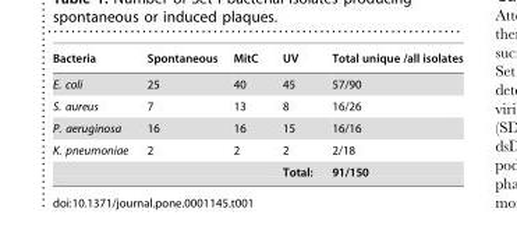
<table><thead><tr><td>Bacteria</td><td>Spontaneous</td><td>MitC</td><td>UV</td><td>Total unique /all isolates</td></tr></thead><tbody><tr><td>E. coli</td><td>25</td><td>40</td><td>45</td><td>57/90</td></tr><tr><td>S. aureus</td><td>7</td><td>13</td><td>8</td><td>16/26</td></tr><tr><td>P. aeruginosa</td><td>16</td><td>16</td><td>15</td><td>16/16</td></tr><tr><td rowspan="2">K. pneumoniae</td><td>2</td><td>2</td><td>2</td><td>2/18</td></tr><tr><td></td><td></td><td>Total:</td><td>91/150</td></tr></tbody></table>